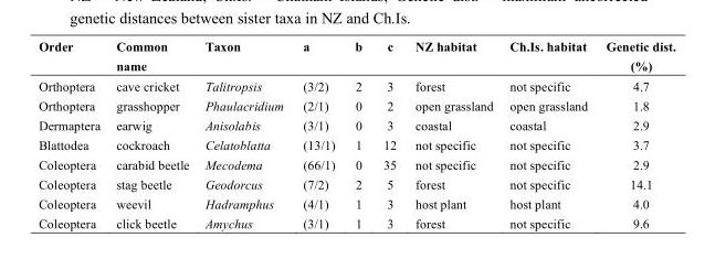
<table><thead><tr><td>Order</td><td>Common name</td><td>Taxon</td><td>a</td><td>b</td><td>c</td><td>NZ habitat</td><td>Ch.Is. habitat</td><td>Genetic dist. (%)</td></tr></thead><tbody><tr><td>Orthoptera</td><td>cave cricket</td><td>Talitropsis</td><td>(3/2)</td><td>2</td><td>3</td><td>forest</td><td>not specific</td><td>4.7</td></tr><tr><td>Orthoptera</td><td>grasshopper</td><td>Phaulacridium</td><td>(2/1)</td><td>0</td><td>2</td><td>open grassland</td><td>open grassland</td><td>1.8</td></tr><tr><td>Dermaptera</td><td>earwig</td><td>Anisolabis</td><td>(3/1)</td><td>0</td><td>3</td><td>coastal</td><td>coastal</td><td>2.9</td></tr><tr><td>Blattodea</td><td>cockroach</td><td>Celatoblatta</td><td>(13/1)</td><td>1</td><td>12</td><td>not specific</td><td>not specific</td><td>3.7</td></tr><tr><td>Coleoptera</td><td>carabid beetle</td><td>Mecodema</td><td>(66/1)</td><td>0</td><td>35</td><td>not specific</td><td>not specific</td><td>2.9</td></tr><tr><td>Coleoptera</td><td>stag beetle</td><td>Geodorcus</td><td>(7/2)</td><td>2</td><td>5</td><td>forest</td><td>not specific</td><td>14.1</td></tr><tr><td>Coleoptera</td><td>weevil</td><td>Hadramphus</td><td>(4/1)</td><td>1</td><td>3</td><td>host plant</td><td>host plant</td><td>4.0</td></tr><tr><td>Coleoptera</td><td>click beetle</td><td>Amychus</td><td>(3/1)</td><td>1</td><td>3</td><td>forest</td><td>not specific</td><td>9.6</td></tr></tbody></table>